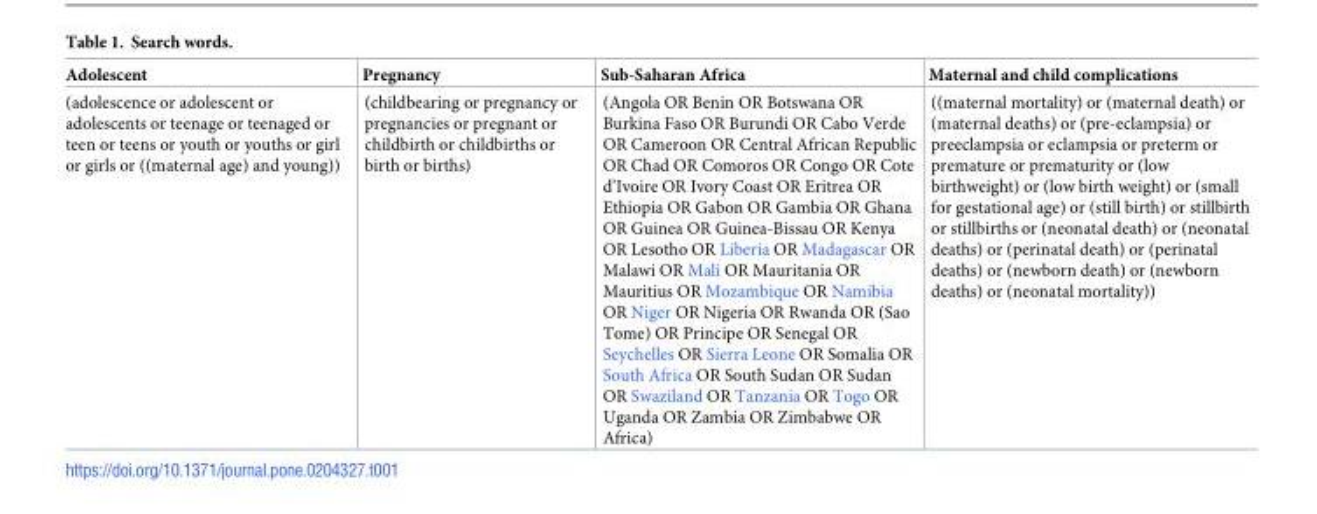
<table><thead><tr><td>Adolescent</td><td>Pregnancy</td><td>Sub-Saharan Africa</td><td>Maternal and child complications</td></tr></thead><tbody><tr><td>(adolescence or adolescent or adolescents or teenage or teenaged or teen or teens or youth or youths or girl or girls or ((maternal age) and young))</td><td>(childbearing or pregnancy or pregnancies or pregnant or childbirth or childbirths or birth or births)</td><td>(Angola OR Benin OR Botswana OR Burkina Faso OR Burundi OR Cabo Verde OR Cameroon OR Central African Republic OR Chad OR Comoros OR Congo OR Cote d’Ivoire OR Ivory Coast OR Eritrea OR Ethiopia OR Gabon OR Gambia OR Ghana OR Guinea OR Guinea-Bissau OR Kenya OR Lesotho OR Liberia OR Madagascar OR Malawi OR Mali OR Mauritania OR Mauritius OR Mozambique OR Namibia OR Niger OR Nigeria OR Rwanda OR (Sao Tome) OR Principe OR Senegal OR Seychelles OR Sierra Leone OR Somalia OR South Africa OR South Sudan OR Sudan OR Swaziland OR Tanzania OR Togo OR Uganda OR Zambia OR Zimbabwe OR Africa)</td><td>((maternal mortality) or (maternal death) or (maternal deaths) or (pre-eclampsia) or preeclampsia or eclampsia or preterm or premature or prematurity or (low birthweight) or (low birth weight) or (small for gestational age) or (still birth) or stillbirth or stillbirths or (neonatal death) or (neonatal deaths) or (perinatal death) or (perinatal deaths) or (newborn death) or (newborn deaths) or (neonatal mortality))</td></tr></tbody></table>